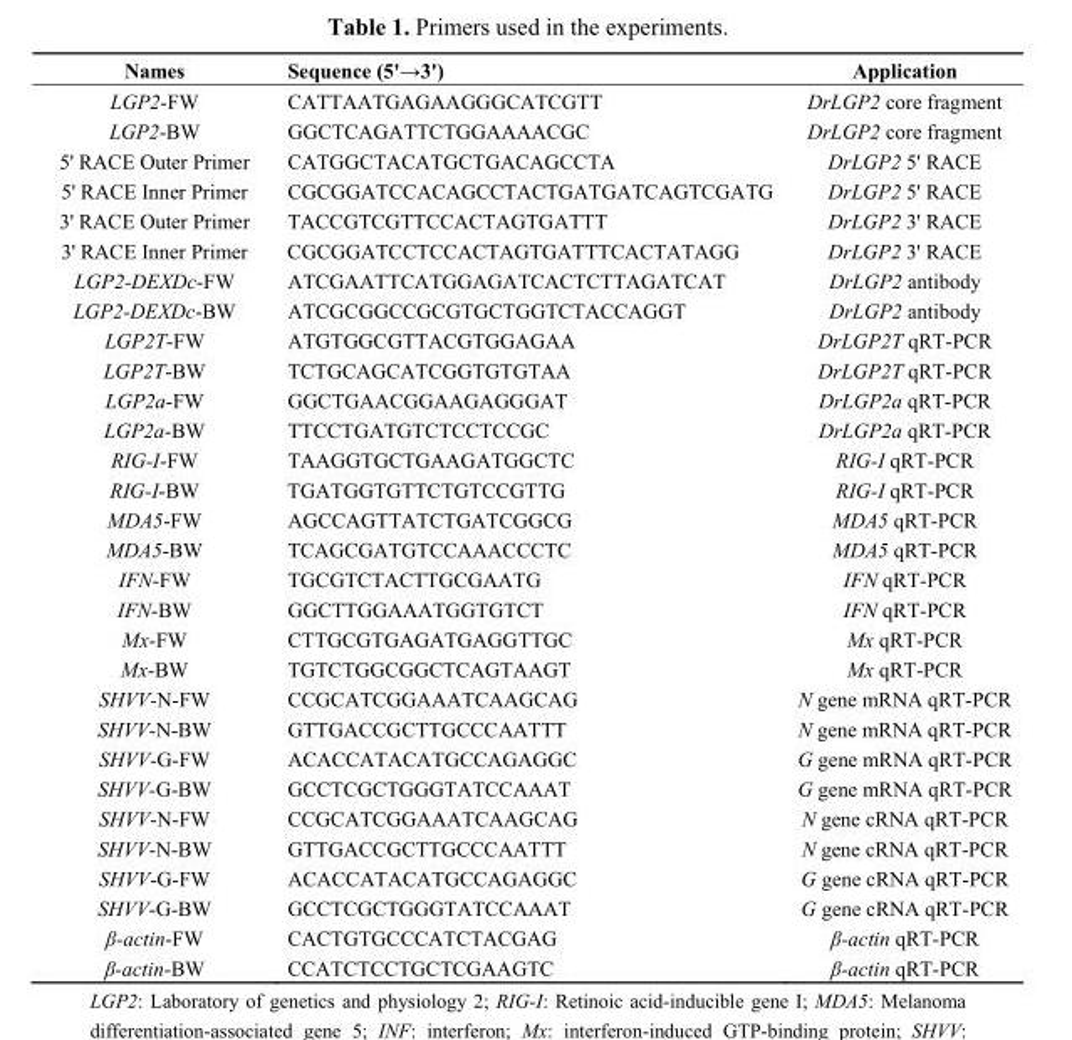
<table><thead><tr><td>Names</td><td>Sequence (5&#x27;→3&#x27;)</td><td>Application</td></tr></thead><tbody><tr><td>LGP2-FW</td><td>CATTAATGAGAAGGGCATCGTT</td><td>DrLGP2 core fragment</td></tr><tr><td>LGP2-BW</td><td>GGCTCAGATTCTGGAAAACGC</td><td>DrLGP2 core fragment</td></tr><tr><td>5&#x27; RACE Outer Primer</td><td>CATGGCTACATGCTGACAGCCTA</td><td>DrLGP2 5&#x27; RACE</td></tr><tr><td>5&#x27; RACE Inner Primer</td><td>CGCGGATCCACAGCCTACTGATGATCAGTCGATG</td><td>DrLGP2 5&#x27; RACE</td></tr><tr><td>3&#x27; RACE Outer Primer</td><td>TACCGTCGTTCCACTAGTGATTT</td><td>DrLGP2 3&#x27; RACE</td></tr><tr><td>3&#x27; RACE Inner Primer</td><td>CGCGGATCCTCCACTAGTGATTTCACTATAGG</td><td>DrLGP2 3&#x27; RACE</td></tr><tr><td>LGP2-DEXDc-FW</td><td>ATCGAATTCATGGAGATCACTCTTAGATCAT</td><td>DrLGP2 antibody</td></tr><tr><td>LGP2-DEXDc-BW</td><td>ATCGCGGCCGCGTGCTGGTCTACCAGGT</td><td>DrLGP2 antibody</td></tr><tr><td>LGP2T-FW</td><td>ATGTGGCGTTACGTGGAGAA</td><td>DrLGP2T qRT-PCR</td></tr><tr><td>LGP2T-BW</td><td>TCTGCAGCATCGGTGTGTAA</td><td>DrLGP2T qRT-PCR</td></tr><tr><td>LGP2a-FW</td><td>GGCTGAACGGAAGAGGGAT</td><td>DrLGP2a qRT-PCR</td></tr><tr><td>LGP2a-BW</td><td>TTCCTGATGTCTCCTCCGC</td><td>DrLGP2a qRT-PCR</td></tr><tr><td>RIG-I-FW</td><td>TAAGGTGCTGAAGATGGCTC</td><td>RIG-I qRT-PCR</td></tr><tr><td>RIG-I-BW</td><td>TGATGGTGTTCTGTCCGTTG</td><td>RIG-I qRT-PCR</td></tr><tr><td>MDA5-FW</td><td>AGCCAGTTATCTGATCGGCG</td><td>MDA5 qRT-PCR</td></tr><tr><td>MDA5-BW</td><td>TCAGCGATGTCCAAACCCTC</td><td>MDA5 qRT-PCR</td></tr><tr><td>IFN-FW</td><td>TGCGTCTACTTGCGAATG</td><td>IFN qRT-PCR</td></tr><tr><td>IFN-BW</td><td>GGCTTGGAAATGGTGTCT</td><td>IFN qRT-PCR</td></tr><tr><td>Mx-FW</td><td>CTTGCGTGAGATGAGGTTGC</td><td>Mx qRT-PCR</td></tr><tr><td>Mx-BW</td><td>TGTCTGGCGGCTCAGTAAGT</td><td>Mx qRT-PCR</td></tr><tr><td>SHVV-N-FW</td><td>CCGCATCGGAAATCAAGCAG</td><td>N gene mRNA qRT-PCR</td></tr><tr><td>SHVV-N-BW</td><td>GTTGACCGCTTGCCCAATTT</td><td>N gene mRNA qRT-PCR</td></tr><tr><td>SHVV-G-FW</td><td>ACACCATACATGCCAGAGGC</td><td>G gene mRNA qRT-PCR</td></tr><tr><td>SHVV-G-BW</td><td>GCCTCGCTGGGTATCCAAAT</td><td>G gene mRNA qRT-PCR</td></tr><tr><td>SHVV-N-FW</td><td>CCGCATCGGAAATCAAGCAG</td><td>N gene cRNA qRT-PCR</td></tr><tr><td>SHVV-N-BW</td><td>GTTGACCGCTTGCCCAATTT</td><td>N gene cRNA qRT-PCR</td></tr><tr><td>SHVV-G-FW</td><td>ACACCATACATGCCAGAGGC</td><td>G gene cRNA qRT-PCR</td></tr><tr><td>SHVV-G-BW</td><td>GCCTCGCTGGGTATCCAAAT</td><td>G gene cRNA qRT-PCR</td></tr><tr><td>β-actin-FW</td><td>CACTGTGCCCATCTACGAG</td><td>β-actin qRT-PCR</td></tr><tr><td>β-actin-BW</td><td>CCATCTCCTGCTCGAAGTC</td><td>β-actin qRT-PCR</td></tr></tbody></table>